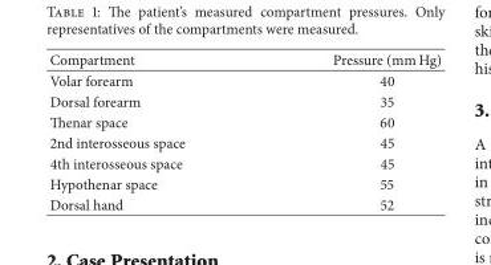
<table><thead><tr><td>Compartment</td><td>Pressure (mm Hg)</td></tr></thead><tbody><tr><td>Volar forearm</td><td>40</td></tr><tr><td>Dorsal forearm</td><td>35</td></tr><tr><td>Thenar space</td><td>60</td></tr><tr><td>2nd interosseous space</td><td>45</td></tr><tr><td>4th interosseous space</td><td>45</td></tr><tr><td>Hypothenar space</td><td>55</td></tr><tr><td>Dorsal hand</td><td>52</td></tr></tbody></table>